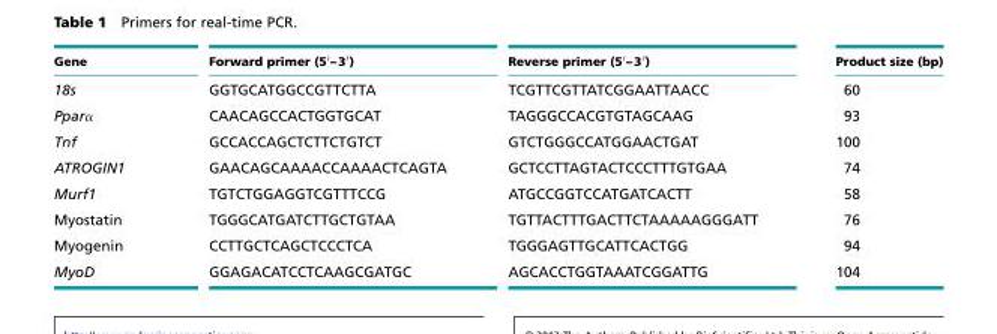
<table><thead><tr><td>Gene</td><td>Forward primer (5′– 3′)</td><td>Reverse primer (5′–3′)</td><td>Product size (bp)</td></tr></thead><tbody><tr><td>18s</td><td>GGTGCATGGCCGTTCTTA</td><td>TCGTTCGTTATCGGAATTAACC</td><td>60</td></tr><tr><td>Pparα</td><td>CAACAGCCACTGGTGCAT</td><td>TAGGGCCACGTGTAGCAAG</td><td>93</td></tr><tr><td>Tnf</td><td>GCCACCAGCTCTTCTGTCT</td><td>GTCTGGGCCATGGAACTGAT</td><td>100</td></tr><tr><td>ATROGIN1</td><td>GAACAGCAAAACCAAAACTCAGTA</td><td>GCTCCTTAGTACTCCCTTTGTGAA</td><td>74</td></tr><tr><td>Murf1</td><td>TGTCTGGAGGTCGTTTCCG</td><td>ATGCCGGTCCATGATCACTT</td><td>58</td></tr><tr><td>Myostatin</td><td>TGGGCATGATCTTGCTGTAA</td><td>TGTTACTTTGACTTCTAAAAAGGGATT</td><td>76</td></tr><tr><td>Myogenin</td><td>CCTTGCTCAGCTCCCTCA</td><td>TGGGAGTTGCATTCACTGG</td><td>94</td></tr><tr><td>MyoD</td><td>GGAGACATCCTCAAGCGATGC</td><td>AGCACCTGGTAAATCGGATTG</td><td>104</td></tr></tbody></table>